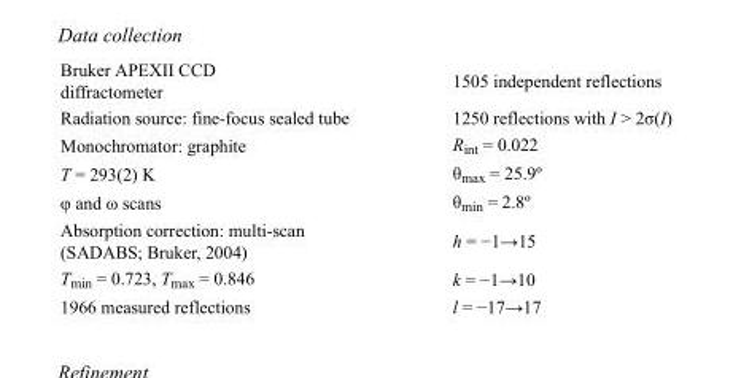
<table><tbody><tr><td>Bruker APEXII CCD diffractometer</td><td>1505 independent reflections</td></tr><tr><td>Radiation source: fine-focus sealed tube</td><td>1250 reflections with I &gt; 2σ(I)</td></tr><tr><td>Monochromator: graphite</td><td>Rint = 0.022</td></tr><tr><td>T = 293(2) K</td><td>θmax = 25.9º</td></tr><tr><td>φ and ω scans</td><td>θmin = 2.8º</td></tr><tr><td>Absorption correction: multi-scan (SADABS; Bruker, 2004)</td><td>h = −1→15</td></tr><tr><td>Tmin = 0.723, Tmax = 0.846</td><td>k = −1→10</td></tr><tr><td>1966 measured reflections</td><td>l = −17→17</td></tr></tbody></table>